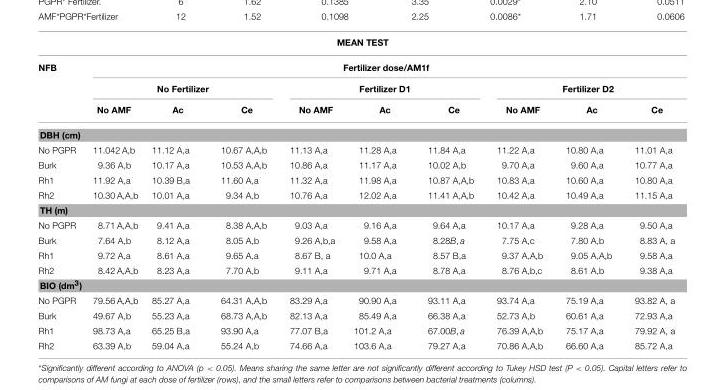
<table><thead><tr><td colspan="10">MEAN TEST</td></tr><tr><td rowspan="3">NFB</td><td colspan="9">Fertilizer dose/AM1f</td></tr><tr><td colspan="3">No Fertilizer</td><td colspan="3">Fertilizer D1</td><td colspan="3">Fertilizer D2</td></tr><tr><td>No AMF</td><td>Ac</td><td>Ce</td><td>No AMF</td><td>Ac</td><td>Ce</td><td>No AMF</td><td>Ac</td><td>Ce</td></tr></thead><tbody><tr><td colspan="10">DBH (cm)</td></tr><tr><td>No PGPR</td><td>11.042 A,b</td><td>11.12 A,a</td><td>10.67 A,A,b</td><td>11.13 A,a</td><td>11.28 A,a</td><td>11.84 A,a</td><td>11.22 A,a</td><td>10.80 A,a</td><td>11.01 A,a</td></tr><tr><td>Burk</td><td>9.36 A,b</td><td>10.17 A,a</td><td>10.53 A,A,b</td><td>10.86 A,a</td><td>11.17 A,a</td><td>10.02 A,b</td><td>9.70 A,a</td><td>9.60 A,a</td><td>10.77 A,a</td></tr><tr><td>Rh1</td><td>11.92 A,a</td><td>10.39 B,a</td><td>11.60 A,a</td><td>11.32 A,a</td><td>11.98 A,a</td><td>10.87 A,A,b</td><td>10.83 A,a</td><td>10.60 A,a</td><td>10.80 A,a</td></tr><tr><td>Rh2</td><td>10.30 A,A,b</td><td>10.01 A,a</td><td>9.34 A,b</td><td>10.76 A,a</td><td>12.02 A,a</td><td>11.41 A,A,b</td><td>10.42 A,a</td><td>10.49 A,a</td><td>11.15 A,a</td></tr><tr><td colspan="10">TH (m)</td></tr><tr><td>No PGPR</td><td>8.71 A,A,b</td><td>9.41 A,a</td><td>8.38 A,A,b</td><td>9.03 A,a</td><td>9.16 A,a</td><td>9.64 A,a</td><td>10.17 A,a</td><td>9.28 A,a</td><td>9.50 A,a</td></tr><tr><td>Burk</td><td>7.64 A,b</td><td>8.12 A,a</td><td>8.05 A,b</td><td>9.26 A,b,a</td><td>9.58 A,a</td><td>8.28B, a</td><td>7.75 A,c</td><td>7.80 A,b</td><td>8.83 A, a</td></tr><tr><td>Rh1</td><td>9.72 A,a</td><td>8.61 A,a</td><td>9.65 A,a</td><td>8.67 B, a</td><td>10.0 A,a</td><td>8.57 B,a</td><td>9.37 A,A,b</td><td>9.05 A,A,b</td><td>9.58 A,a</td></tr><tr><td>Rh2</td><td>8.42 A,A,b</td><td>8.23 A,a</td><td>7.70 A,b</td><td>9.11 A,a</td><td>9.71 A,a</td><td>8.78 A,a</td><td>8.76 A,b,c</td><td>8.61 A,b</td><td>9.38 A,a</td></tr><tr><td colspan="10">BIO (dm<sup>3</sup>)</td></tr><tr><td>No PGPR</td><td>79.56 A,A,b</td><td>85.27 A,a</td><td>64.31 A,A,b</td><td>83.29 A,a</td><td>90.90 A,a</td><td>93.11 A,a</td><td>93.74 A,a</td><td>75.19 A,a</td><td>93.82 A, a</td></tr><tr><td>Burk</td><td>49.67 A,b</td><td>55.23 A,a</td><td>68.73 A,A,b</td><td>82.13 A,a</td><td>85.49 A,a</td><td>66.38 A,a</td><td>52.73 A,b</td><td>60.61 A,a</td><td>72.93 A,a</td></tr><tr><td>Rh1</td><td>98.73 A,a</td><td>65.25 B,a</td><td>93.90 A,a</td><td>77.07 B,a</td><td>101.2 A,a</td><td>67.00B, a</td><td>76.39 A,A,b</td><td>75.17 A,a</td><td>79.92 A, a</td></tr><tr><td>Rh2</td><td>63.39 A,b</td><td>59.04 A,a</td><td>55.24 A,b</td><td>74.66 A,a</td><td>103.6 A,a</td><td>79.27 A,a</td><td>70.86 A,A,b</td><td>66.60 A,a</td><td>85.72 A,a</td></tr></tbody></table>